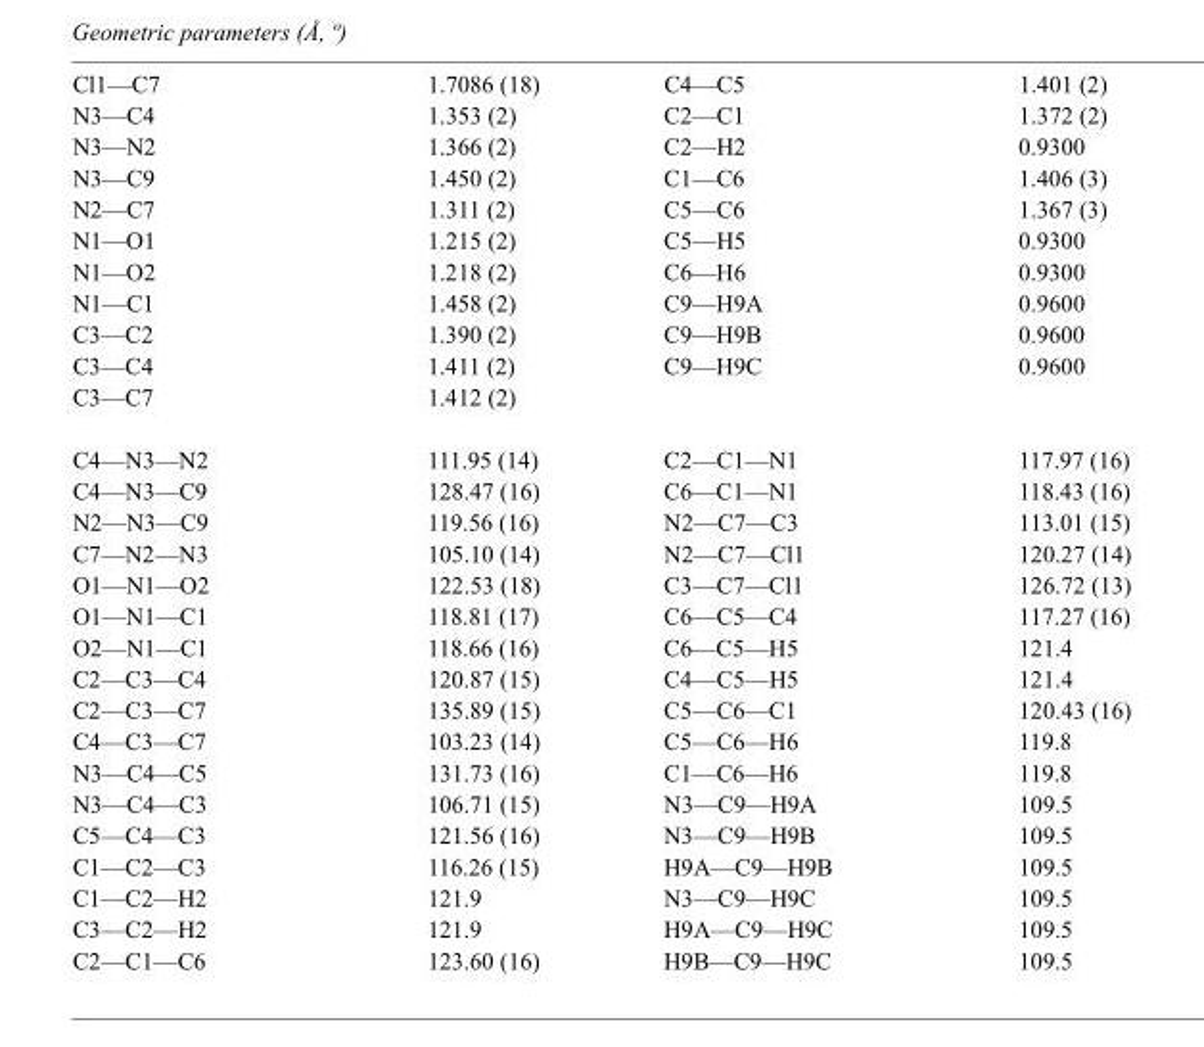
<table><tbody><tr><td>Cl1—C7</td><td>1.7086 (18)</td><td>C4—C5</td><td>1.401 (2)</td></tr><tr><td>N3—C4</td><td>1.353 (2)</td><td>C2—C1</td><td>1.372 (2)</td></tr><tr><td>N3—N2</td><td>1.366 (2)</td><td>C2—H2</td><td>0.9300</td></tr><tr><td>N3—C9</td><td>1.450 (2)</td><td>C1—C6</td><td>1.406 (3)</td></tr><tr><td>N2—C7</td><td>1.311 (2)</td><td>C5—C6</td><td>1.367 (3)</td></tr><tr><td>N1—O1</td><td>1.215 (2)</td><td>C5—H5</td><td>0.9300</td></tr><tr><td>N1—O2</td><td>1.218 (2)</td><td>C6—H6</td><td>0.9300</td></tr><tr><td>N1—C1</td><td>1.458 (2)</td><td>C9—H9A</td><td>0.9600</td></tr><tr><td>C3—C2</td><td>1.390 (2)</td><td>C9—H9B</td><td>0.9600</td></tr><tr><td>C3—C4</td><td>1.411 (2)</td><td>C9—H9C</td><td>0.9600</td></tr><tr><td>C3—C7</td><td>1.412 (2)</td><td></td><td></td></tr><tr><td>C4—N3—N2</td><td>111.95 (14)</td><td>C2—C1—N1</td><td>117.97 (16)</td></tr><tr><td>C4—N3—C9</td><td>128.47 (16)</td><td>C6—C1—N1</td><td>118.43 (16)</td></tr><tr><td>N2—N3—C9</td><td>119.56 (16)</td><td>N2—C7—C3</td><td>113.01 (15)</td></tr><tr><td>C7—N2—N3</td><td>105.10 (14)</td><td>N2—C7—Cl1</td><td>120.27 (14)</td></tr><tr><td>O1—N1—O2</td><td>122.53 (18)</td><td>C3—C7—Cl1</td><td>126.72 (13)</td></tr><tr><td>O1—N1—C1</td><td>118.81 (17)</td><td>C6—C5—C4</td><td>117.27 (16)</td></tr><tr><td>O2—N1—C1</td><td>118.66 (16)</td><td>C6—C5—H5</td><td>121.4</td></tr><tr><td>C2—C3—C4</td><td>120.87 (15)</td><td>C4—C5—H5</td><td>121.4</td></tr><tr><td>C2—C3—C7</td><td>135.89 (15)</td><td>C5—C6—C1</td><td>120.43 (16)</td></tr><tr><td>C4—C3—C7</td><td>103.23 (14)</td><td>C5—C6—H6</td><td>119.8</td></tr><tr><td>N3—C4—C5</td><td>131.73 (16)</td><td>C1—C6—H6</td><td>119.8</td></tr><tr><td>N3—C4—C3</td><td>106.71 (15)</td><td>N3—C9—H9A</td><td>109.5</td></tr><tr><td>C5—C4—C3</td><td>121.56 (16)</td><td>N3—C9—H9B</td><td>109.5</td></tr><tr><td>C1—C2—C3</td><td>116.26 (15)</td><td>H9A—C9—H9B</td><td>109.5</td></tr><tr><td>C1—C2—H2</td><td>121.9</td><td>N3—C9—H9C</td><td>109.5</td></tr><tr><td>C3—C2—H2</td><td>121.9</td><td>H9A—C9—H9C</td><td>109.5</td></tr><tr><td>C2—C1—C6</td><td>123.60 (16)</td><td>H9B—C9—H9C</td><td>109.5</td></tr></tbody></table>